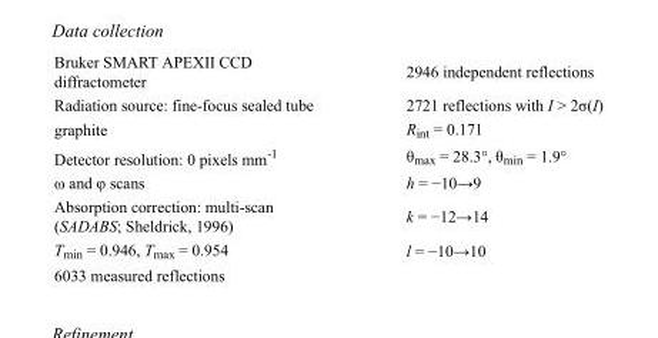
<table><tbody><tr><td>Bruker SMART APEXII CCD diffractometer</td><td>2946 independent reflections</td></tr><tr><td>Radiation source: fine-focus sealed tube</td><td>2721 reflections with I &gt; 2σ(I)</td></tr><tr><td>graphite</td><td>R<sub>int</sub> = 0.171</td></tr><tr><td>Detector resolution: 0 pixels mm<sup>-1</sup></td><td>θ<sub>max</sub> = 28.3°, θ<sub>min</sub> = 1.9°</td></tr><tr><td>ω and φ scans</td><td>h = −10→9</td></tr><tr><td>Absorption correction: multi-scan (SADABS; Sheldrick, 1996)</td><td>k = −12→14</td></tr><tr><td>T<sub>min</sub> = 0.946, T<sub>max</sub> = 0.954</td><td>l = −10→10</td></tr><tr><td>6033 measured reflections</td><td></td></tr></tbody></table>